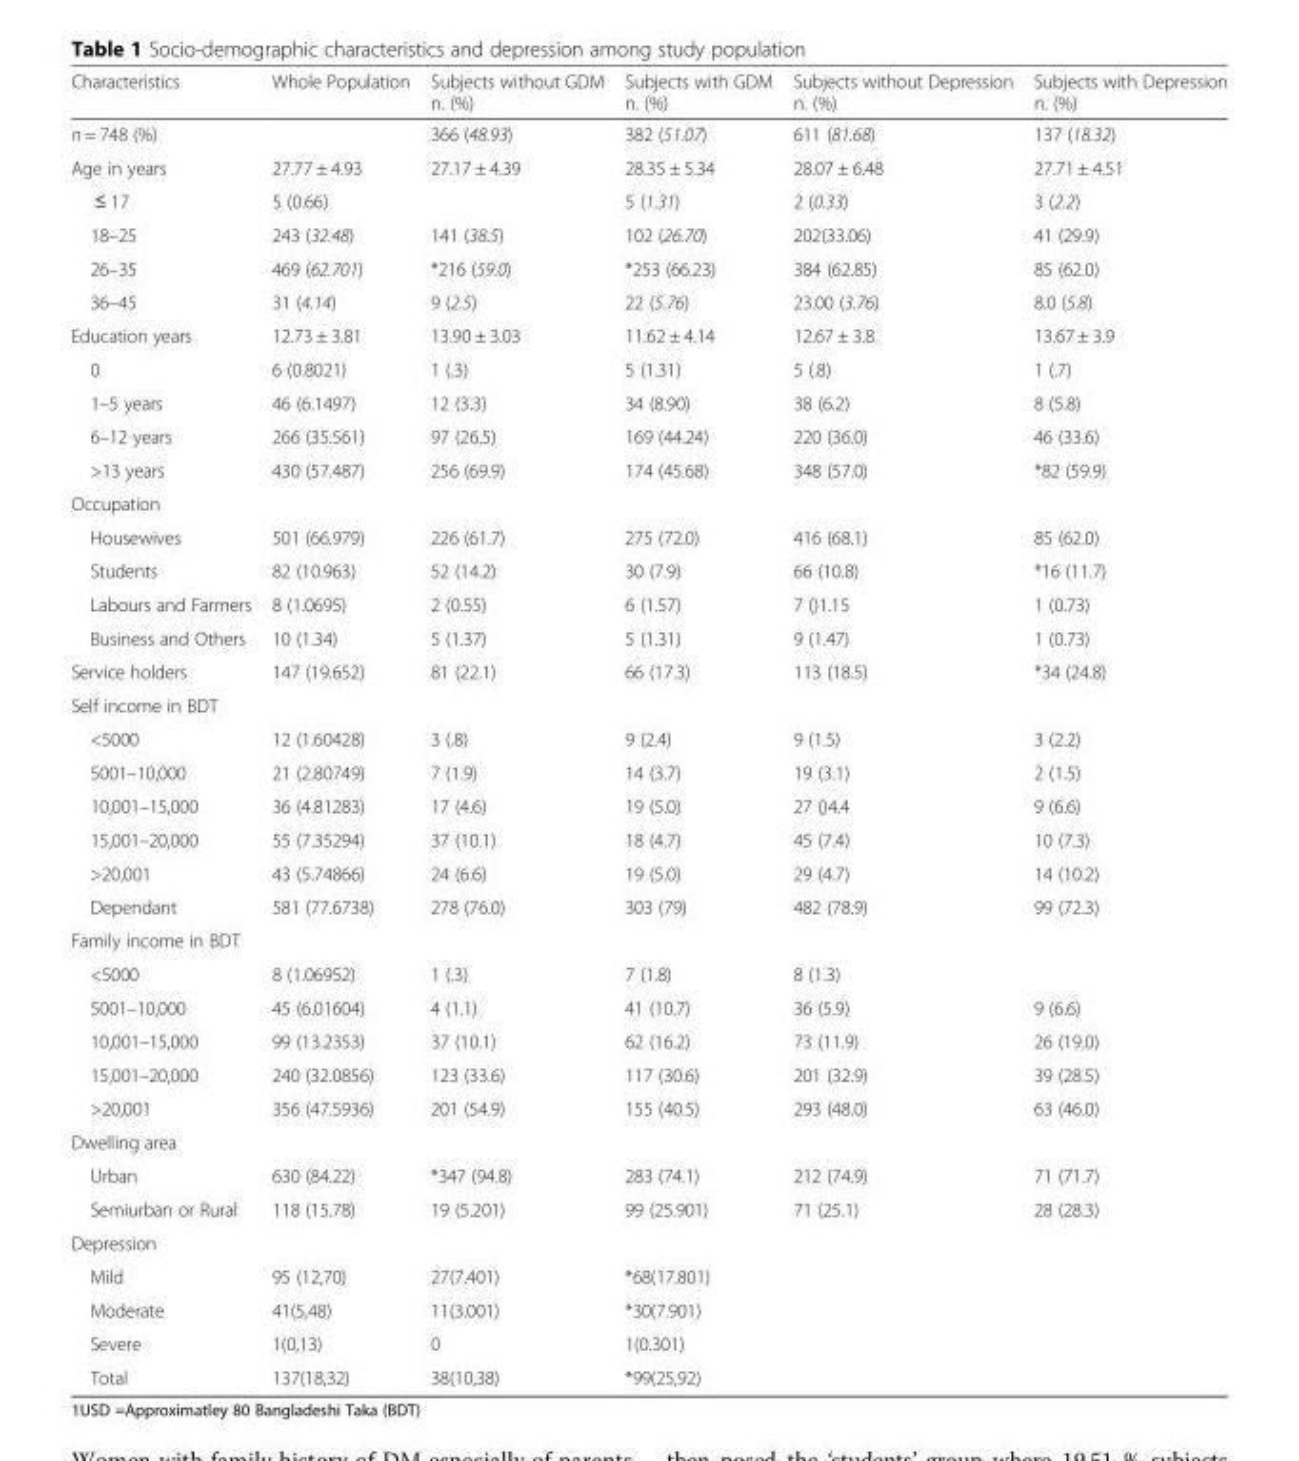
<table><thead><tr><td>Characteristics</td><td>Whole Population</td><td>Subjects without GDM n. (%)</td><td>Subjects with GDM n. (%)</td><td>Subjects without Depression n. (%)</td><td>Subjects with Depression n. (%)</td></tr></thead><tbody><tr><td>n = 748 (%)</td><td></td><td>366 (48.93)</td><td>382 (51.07)</td><td>611 (81.68)</td><td>137 (18.32)</td></tr><tr><td>Age in years</td><td>27.77 ± 4.93</td><td>27.17 ± 4.39</td><td>28.35 ± 5.34</td><td>28.07 ± 6.48</td><td>27.71 ± 4.51</td></tr><tr><td>≤ 17</td><td>5 (0.66)</td><td></td><td>5 (1.31)</td><td>2 (0.33)</td><td>3 (2.2)</td></tr><tr><td>18–25</td><td>243 (32.48)</td><td>141 (38.5)</td><td>102 (26.70)</td><td>202(33.06)</td><td>41 (29.9)</td></tr><tr><td>26–35</td><td>469 (62.701)</td><td>*216 (59.0)</td><td>*253 (66.23)</td><td>384 (62.85)</td><td>85 (62.0)</td></tr><tr><td>36–45</td><td>31 (4.14)</td><td>9 (2.5)</td><td>22 (5.76)</td><td>23.00 (3.76)</td><td>8.0 (5.8)</td></tr><tr><td>Education years</td><td>12.73 ± 3.81</td><td>13.90 ± 3.03</td><td>11.62 ± 4.14</td><td>12.67 ± 3.8</td><td>13.67 ± 3.9</td></tr><tr><td>0</td><td>6 (0.8021)</td><td>1 (.3)</td><td>5 (1.31)</td><td>5 (.8)</td><td>1 (.7)</td></tr><tr><td>1–5 years</td><td>46 (6.1497)</td><td>12 (3.3)</td><td>34 (8.90)</td><td>38 (6.2)</td><td>8 (5.8)</td></tr><tr><td>6–12 years</td><td>266 (35.561)</td><td>97 (26.5)</td><td>169 (44.24)</td><td>220 (36.0)</td><td>46 (33.6)</td></tr><tr><td>&gt;13 years</td><td>430 (57.487)</td><td>256 (69.9)</td><td>174 (45.68)</td><td>348 (57.0)</td><td>*82 (59.9)</td></tr><tr><td colspan="6">Occupation</td></tr><tr><td>Housewives</td><td>501 (66.979)</td><td>226 (61.7)</td><td>275 (72.0)</td><td>416 (68.1)</td><td>85 (62.0)</td></tr><tr><td>Students</td><td>82 (10.963)</td><td>52 (14.2)</td><td>30 (7.9)</td><td>66 (10.8)</td><td>*16 (11.7)</td></tr><tr><td>Labours and Farmers</td><td>8 (1.0695)</td><td>2 (0.55)</td><td>6 (1.57)</td><td>7 ()1.15</td><td>1 (0.73)</td></tr><tr><td>Business and Others</td><td>10 (1.34)</td><td>5 (1.37)</td><td>5 (1.31)</td><td>9 (1.47)</td><td>1 (0.73)</td></tr><tr><td>Service holders</td><td>147 (19.652)</td><td>81 (22.1)</td><td>66 (17.3)</td><td>113 (18.5)</td><td>*34 (24.8)</td></tr><tr><td colspan="6">Self income in BDT</td></tr><tr><td>&lt;5000</td><td>12 (1.60428)</td><td>3 (.8)</td><td>9 (2.4)</td><td>9 (1.5)</td><td>3 (2.2)</td></tr><tr><td>5001–10,000</td><td>21 (2.80749)</td><td>7 (1.9)</td><td>14 (3.7)</td><td>19 (3.1)</td><td>2 (1.5)</td></tr><tr><td>10,001–15,000</td><td>36 (4.81283)</td><td>17 (4.6)</td><td>19 (5.0)</td><td>27 ()4.4</td><td>9 (6.6)</td></tr><tr><td>15,001–20,000</td><td>55 (7.35294)</td><td>37 (10.1)</td><td>18 (4.7)</td><td>45 (7.4)</td><td>10 (7.3)</td></tr><tr><td>&gt;20,001</td><td>43 (5.74866)</td><td>24 (6.6)</td><td>19 (5.0)</td><td>29 (4.7)</td><td>14 (10.2)</td></tr><tr><td>Dependant</td><td>581 (77.6738)</td><td>278 (76.0)</td><td>303 (79)</td><td>482 (78.9)</td><td>99 (72.3)</td></tr><tr><td colspan="6">Family income in BDT</td></tr><tr><td>&lt;5000</td><td>8 (1.06952)</td><td>1 (.3)</td><td>7 (1.8)</td><td>8 (1.3)</td><td></td></tr><tr><td>5001–10,000</td><td>45 (6.01604)</td><td>4 (1.1)</td><td>41 (10.7)</td><td>36 (5.9)</td><td>9 (6.6)</td></tr><tr><td>10,001–15,000</td><td>99 (13.2353)</td><td>37 (10.1)</td><td>62 (16.2)</td><td>73 (11.9)</td><td>26 (19.0)</td></tr><tr><td>15,001–20,000</td><td>240 (32.0856)</td><td>123 (33.6)</td><td>117 (30.6)</td><td>201 (32.9)</td><td>39 (28.5)</td></tr><tr><td>&gt;20,001</td><td>356 (47.5936)</td><td>201 (54.9)</td><td>155 (40.5)</td><td>293 (48.0)</td><td>63 (46.0)</td></tr><tr><td colspan="6">Dwelling area</td></tr><tr><td>Urban</td><td>630 (84.22)</td><td>*347 (94.8)</td><td>283 (74.1)</td><td>212 (74.9)</td><td>71 (71.7)</td></tr><tr><td>Semiurban or Rural</td><td>118 (15.78)</td><td>19 (5.201)</td><td>99 (25.901)</td><td>71 (25.1)</td><td>28 (28.3)</td></tr><tr><td colspan="6">Depression</td></tr><tr><td>Mild</td><td>95 (12,70)</td><td>27(7.401)</td><td>*68(17.801)</td><td></td><td></td></tr><tr><td>Moderate</td><td>41(5,48)</td><td>11(3.001)</td><td>*30(7.901)</td><td></td><td></td></tr><tr><td>Severe</td><td>1(0,13)</td><td>0</td><td>1(0.301)</td><td></td><td></td></tr><tr><td>Total</td><td>137(18,32)</td><td>38(10,38)</td><td>*99(25,92)</td><td></td><td></td></tr></tbody></table>